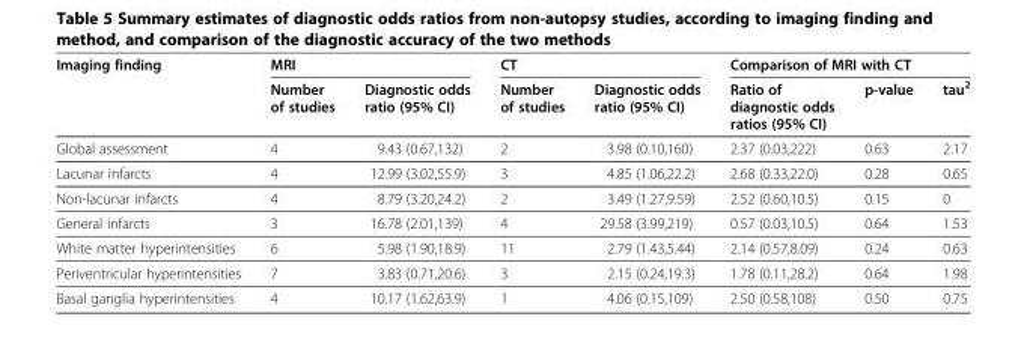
<table><thead><tr><td rowspan="2">Imaging finding</td><td colspan="2">MRI</td><td colspan="2">CT</td><td colspan="3">Comparison of MRI with CT</td></tr><tr><td>Number of studies</td><td>Diagnostic odds ratio (95% CI)</td><td>Number of studies</td><td>Diagnostic odds ratio (95% CI)</td><td>Ratio of diagnostic odds ratios (95% CI)</td><td>p-value</td><td>tau<sup>2</sup></td></tr></thead><tbody><tr><td>Global assessment</td><td>4</td><td>9.43 (0.67,132)</td><td>2</td><td>3.98 (0.10,160)</td><td>2.37 (0.03,222)</td><td>0.63</td><td>2.17</td></tr><tr><td>Lacunar infarcts</td><td>4</td><td>12.99 (3.02,55.9)</td><td>3</td><td>4.85 (1.06,22.2)</td><td>2.68 (0.33,22.0)</td><td>0.28</td><td>0.65</td></tr><tr><td>Non-lacunar infarcts</td><td>4</td><td>8.79 (3.20,24.2)</td><td>2</td><td>3.49 (1.27,9.59)</td><td>2.52 (0.60,10.5)</td><td>0.15</td><td>0</td></tr><tr><td>General infarcts</td><td>3</td><td>16.78 (2.01,139)</td><td>4</td><td>29.58 (3.99,219)</td><td>0.57 (0.03,10.5)</td><td>0.64</td><td>1.53</td></tr><tr><td>White matter hyperintensities</td><td>6</td><td>5.98 (1.90,18.9)</td><td>11</td><td>2.79 (1.43,5.44)</td><td>2.14 (0.57,8.09)</td><td>0.24</td><td>0.63</td></tr><tr><td>Periventricular hyperintensities</td><td>7</td><td>3.83 (0.71,20.6)</td><td>3</td><td>2.15 (0.24,19.3)</td><td>1.78 (0.11,28.2)</td><td>0.64</td><td>1.98</td></tr><tr><td>Basal ganglia hyperintensities</td><td>4</td><td>10.17 (1.62,63.9)</td><td>1</td><td>4.06 (0.15,109)</td><td>2.50 (0.58,108)</td><td>0.50</td><td>0.75</td></tr></tbody></table>